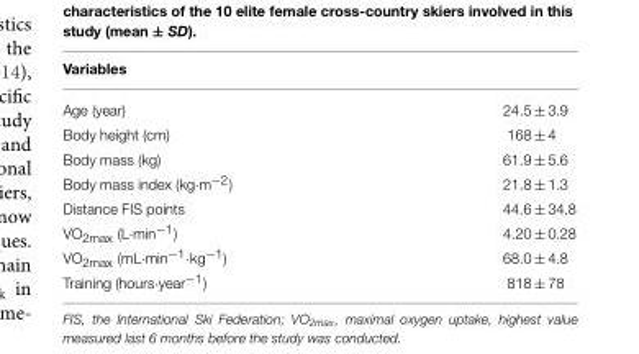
<table><thead><tr><td>Variables</td><td></td></tr></thead><tbody><tr><td>Age (year)</td><td>24.5 ± 3.9</td></tr><tr><td>Body height (cm)</td><td>168 ± 4</td></tr><tr><td>Body mass (kg)</td><td>61.9 ± 5.6</td></tr><tr><td>Body mass index (kg·m<sup>−2</sup>)</td><td>21.8 ± 1.3</td></tr><tr><td>Distance FIS points</td><td>44.6 ± 34.8</td></tr><tr><td>VO<sub>2max</sub> (L·min<sup>−1</sup>)</td><td>4.20 ± 0.28</td></tr><tr><td>VO<sub>2max</sub> (mL·min<sup>−1</sup>·kg<sup>−1</sup>)</td><td>68.0 ± 4.8</td></tr><tr><td>Training (hours·year<sup>−1</sup>)</td><td>818 ± 78</td></tr></tbody></table>